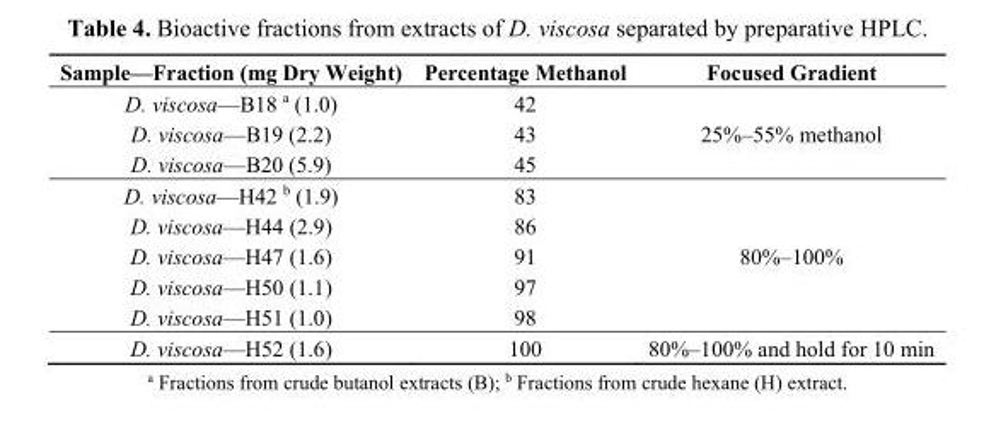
<table><thead><tr><td>Sample—Fraction (mg Dry Weight)</td><td>Percentage Methanol</td><td>Focused Gradient</td></tr></thead><tbody><tr><td>D. viscosa—B18 <sup>a</sup> (1.0)</td><td>42</td><td rowspan="3">25%–55% methanol</td></tr><tr><td>D. viscosa—B19 (2.2)</td><td>43</td></tr><tr><td>D. viscosa—B20 (5.9)</td><td>45</td></tr><tr><td>D. viscosa—H42 <sup>b</sup> (1.9)</td><td>83</td><td rowspan="5">80%–100%</td></tr><tr><td>D. viscosa—H44 (2.9)</td><td>86</td></tr><tr><td>D. viscosa—H47 (1.6)</td><td>91</td></tr><tr><td>D. viscosa—H50 (1.1)</td><td>97</td></tr><tr><td>D. viscosa—H51 (1.0)</td><td>98</td></tr><tr><td>D. viscosa—H52 (1.6)</td><td>100</td><td>80%–100% and hold for 10 min</td></tr></tbody></table>